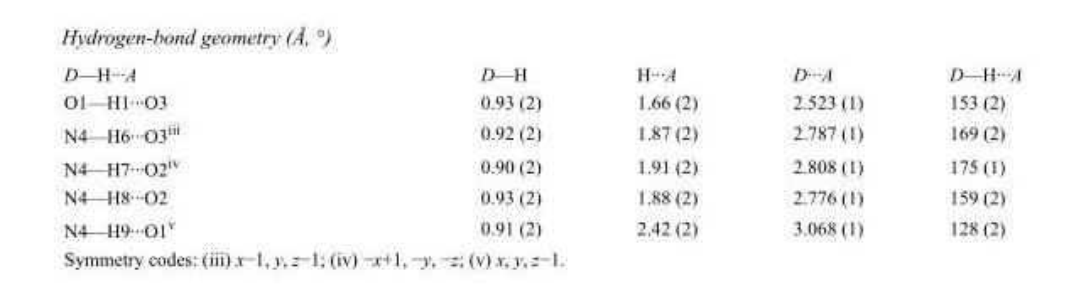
<table><tbody><tr><td>D—H···A</td><td>D—H</td><td>H···A</td><td>D···A</td><td>D—H···A</td></tr><tr><td>O1—H1···O3</td><td>0.93 (2)</td><td>1.66 (2)</td><td>2.523 (1)</td><td>153 (2)</td></tr><tr><td>N4—H6···O3<sup>iii</sup></td><td>0.92 (2)</td><td>1.87 (2)</td><td>2.787 (1)</td><td>169 (2)</td></tr><tr><td>N4—H7···O2<sup>iv</sup></td><td>0.90 (2)</td><td>1.91 (2)</td><td>2.808 (1)</td><td>175 (1)</td></tr><tr><td>N4—H8···O2</td><td>0.93 (2)</td><td>1.88 (2)</td><td>2.776 (1)</td><td>159 (2)</td></tr><tr><td>N4—H9···O1<sup>v</sup></td><td>0.91 (2)</td><td>2.42 (2)</td><td>3.068 (1)</td><td>128 (2)</td></tr></tbody></table>